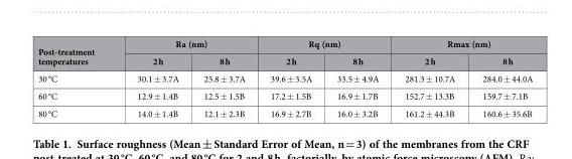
<table><thead><tr><td rowspan="2">Post-treatment temperatures</td><td colspan="2">Ra (nm)</td><td colspan="2">Rq (nm)</td><td colspan="2">Rmax (nm)</td></tr><tr><td>2 h</td><td>8 h</td><td>2 h</td><td>8 h</td><td>2 h</td><td>8 h</td></tr></thead><tbody><tr><td>30 °C</td><td>30.1 ± 3.7A</td><td>25.8 ± 3.7A</td><td>39.6 ± 3.5A</td><td>33.5 ± 4.9A</td><td>281.3 ± 10.7A</td><td>284.0 ± 44.0A</td></tr><tr><td>60 °C</td><td>12.9 ± 1.4B</td><td>12.5 ± 1.5B</td><td>17.2 ± 1.5B</td><td>16.9 ± 1.7B</td><td>152.7 ± 13.3B</td><td>159.7 ± 7.1B</td></tr><tr><td>80 °C</td><td>14.0 ± 1.4B</td><td>12.1 ± 2.3B</td><td>16.9 ± 2.7B</td><td>16.0 ± 3.2B</td><td>161.2 ± 44.3B</td><td>160.6 ± 35.6B</td></tr></tbody></table>